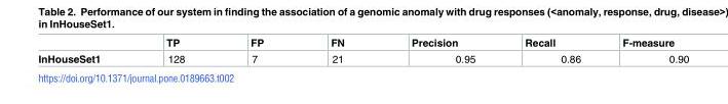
<table><thead><tr><td></td><td>TP</td><td>FP</td><td>FN</td><td>Precision</td><td>Recall</td><td>F-measure</td></tr></thead><tbody><tr><td>InHouseSet1</td><td>128</td><td>7</td><td>21</td><td>0.95</td><td>0.86</td><td>0.90</td></tr></tbody></table>